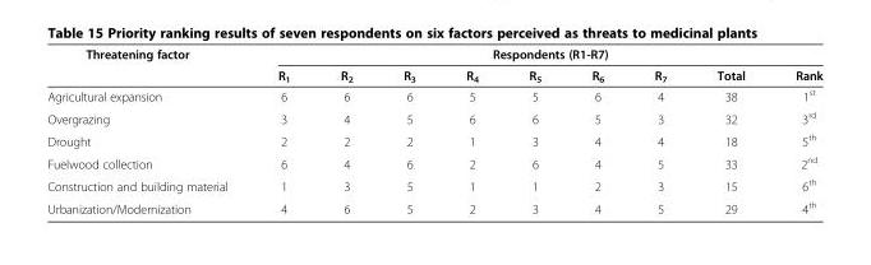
<table><thead><tr><td rowspan="2">Threatening factor</td><td colspan="9">Respondents (R1-R7)</td></tr><tr><td>R<sub>1</sub></td><td>R<sub>2</sub></td><td>R<sub>3</sub></td><td>R<sub>4</sub></td><td>R<sub>5</sub></td><td>R<sub>6</sub></td><td>R<sub>7</sub></td><td>Total</td><td>Rank</td></tr></thead><tbody><tr><td>Agricultural expansion</td><td>6</td><td>6</td><td>6</td><td>5</td><td>5</td><td>6</td><td>4</td><td>38</td><td>1<sup>st</sup></td></tr><tr><td>Overgrazing</td><td>3</td><td>4</td><td>5</td><td>6</td><td>6</td><td>5</td><td>3</td><td>32</td><td>3<sup>rd</sup></td></tr><tr><td>Drought</td><td>2</td><td>2</td><td>2</td><td>1</td><td>3</td><td>4</td><td>4</td><td>18</td><td>5<sup>th</sup></td></tr><tr><td>Fuelwood collection</td><td>6</td><td>4</td><td>6</td><td>2</td><td>6</td><td>4</td><td>5</td><td>33</td><td>2<sup>nd</sup></td></tr><tr><td>Construction and building material</td><td>1</td><td>3</td><td>5</td><td>1</td><td>1</td><td>2</td><td>3</td><td>15</td><td>6<sup>th</sup></td></tr><tr><td>Urbanization/Modernization</td><td>4</td><td>6</td><td>5</td><td>2</td><td>3</td><td>4</td><td>5</td><td>29</td><td>4<sup>th</sup></td></tr></tbody></table>